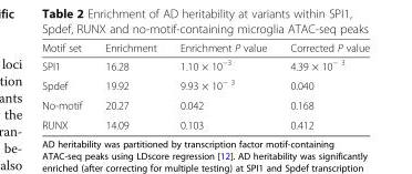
<table><thead><tr><td>Motif set</td><td>Enrichment</td><td>Enrichment P value</td><td>Corrected P value</td></tr></thead><tbody><tr><td>SPI1</td><td>16.28</td><td>1.10 × 10<sup>−3</sup></td><td>4.39 × 10<sup>− 3</sup></td></tr><tr><td>Spdef</td><td>19.92</td><td>9.93 × 10<sup>− 3</sup></td><td>0.040</td></tr><tr><td>No-motif</td><td>20.27</td><td>0.042</td><td>0.168</td></tr><tr><td>RUNX</td><td>14.09</td><td>0.103</td><td>0.412</td></tr></tbody></table>